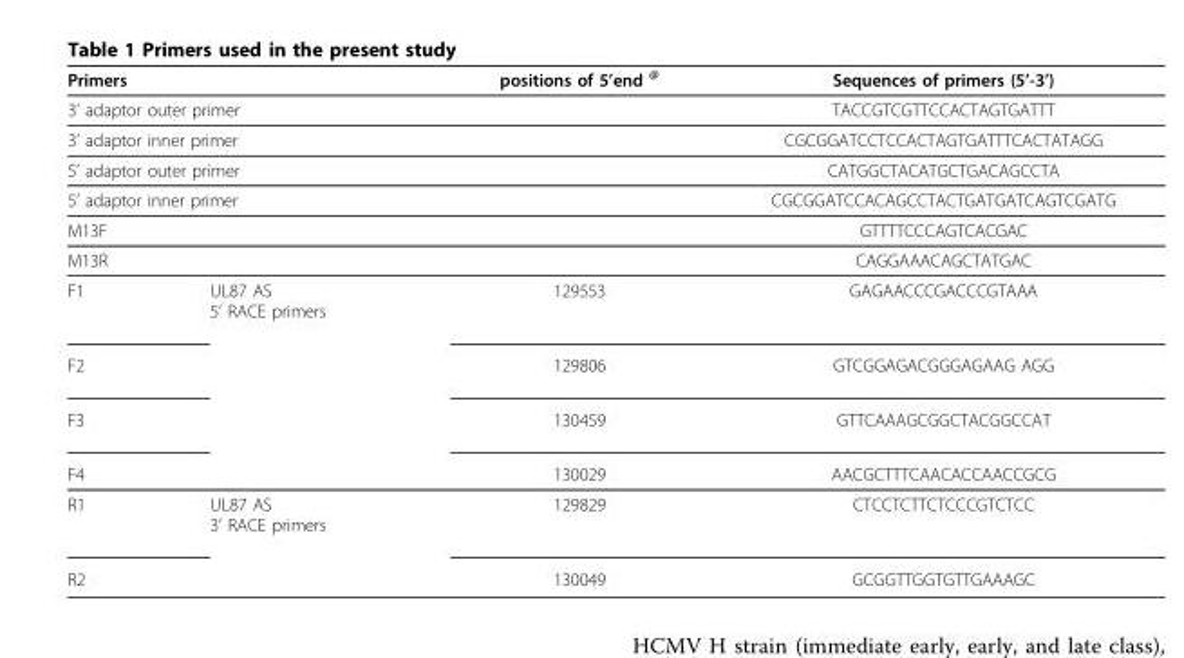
<table><thead><tr><td colspan="2">Primers</td><td>positions of 5’end <sup>@</sup></td><td>Sequences of primers (5’-3’)</td></tr></thead><tbody><tr><td colspan="2">3’ adaptor outer primer</td><td></td><td>TACCGTCGTTCCACTAGTGATTT</td></tr><tr><td colspan="2">3’ adaptor inner primer</td><td></td><td>CGCGGATCCTCCACTAGTGATTTCACTATAGG</td></tr><tr><td colspan="2">5’ adaptor outer primer</td><td></td><td>CATGGCTACATGCTGACAGCCTA</td></tr><tr><td colspan="2">5’ adaptor inner primer</td><td></td><td>CGCGGATCCACAGCCTACTGATGATCAGTCGATG</td></tr><tr><td colspan="2">M13F</td><td></td><td>GTTTTCCCAGTCACGAC</td></tr><tr><td colspan="2">M13R</td><td></td><td>CAGGAAACAGCTATGAC</td></tr><tr><td>F1</td><td>UL87 AS 5’ RACE primers</td><td>129553</td><td>GAGAACCCGACCCGTAAA</td></tr><tr><td>F2</td><td></td><td>129806</td><td>GTCGGAGACGGGAGAAG AGG</td></tr><tr><td>F3</td><td></td><td>130459</td><td>GTTCAAAGCGGCTACGGCCAT</td></tr><tr><td>F4</td><td></td><td>130029</td><td>AACGCTTTCAACACCAACCGCG</td></tr><tr><td>R1</td><td>UL87 AS 3’ RACE primers</td><td>129829</td><td>CTCCTCTTCTCCCGTCTCC</td></tr><tr><td>R2</td><td></td><td>130049</td><td>GCGGTTGGTGTTGAAAGC</td></tr></tbody></table>